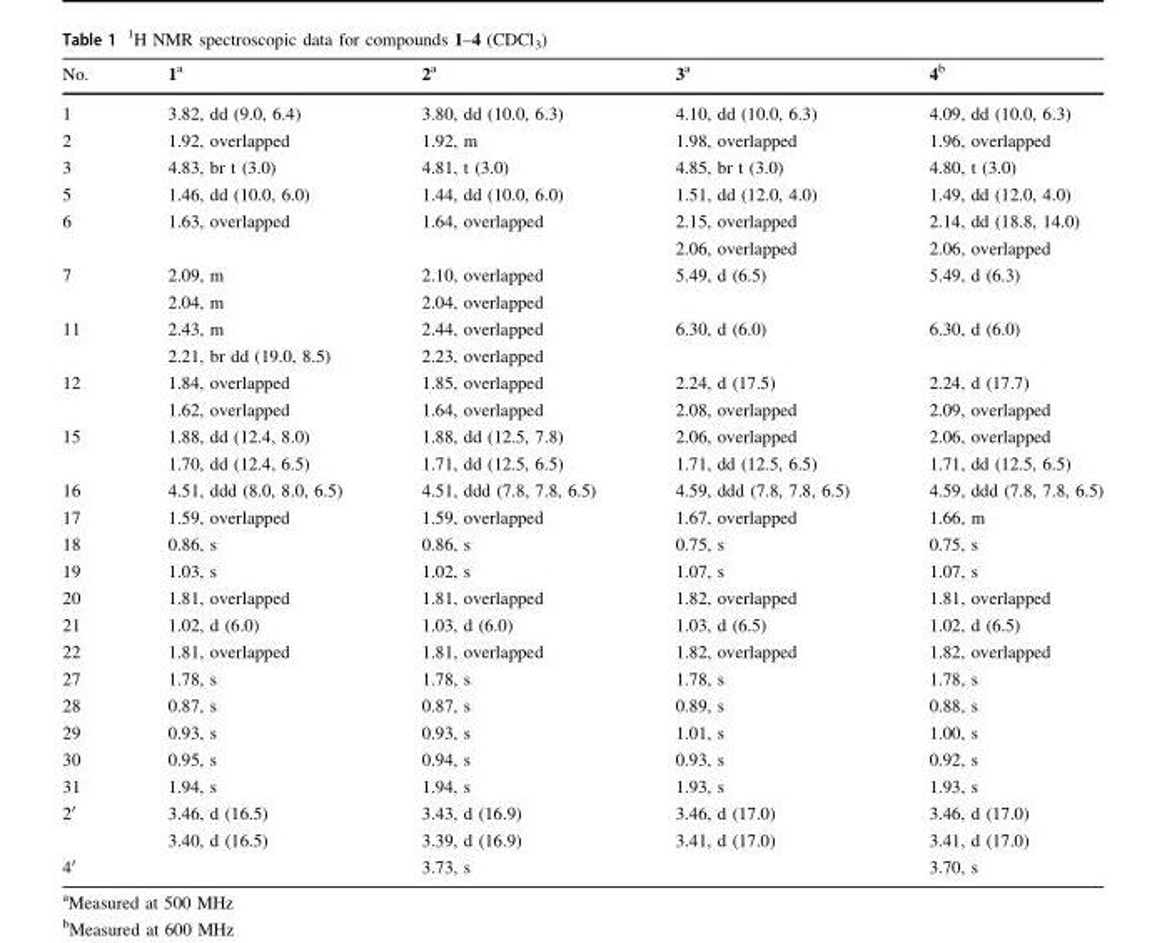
<table><thead><tr><td>No.</td><td>1<sup>a</sup></td><td>2<sup>a</sup></td><td>3<sup>a</sup></td><td>4<sup>b</sup></td></tr></thead><tbody><tr><td>1</td><td>3.82, dd (9.0, 6.4)</td><td>3.80, dd (10.0, 6.3)</td><td>4.10, dd (10.0, 6.3)</td><td>4.09, dd (10.0, 6.3)</td></tr><tr><td>2</td><td>1.92, overlapped</td><td>1.92, m</td><td>1.98, overlapped</td><td>1.96, overlapped</td></tr><tr><td>3</td><td>4.83, br t (3.0)</td><td>4.81, t (3.0)</td><td>4.85, br t (3.0)</td><td>4.80, t (3.0)</td></tr><tr><td>5</td><td>1.46, dd (10.0, 6.0)</td><td>1.44, dd (10.0, 6.0)</td><td>1.51, dd (12.0, 4.0)</td><td>1.49, dd (12.0, 4.0)</td></tr><tr><td>6</td><td>1.63, overlapped</td><td>1.64, overlapped</td><td>2.15, overlapped 2.06, overlapped</td><td>2.14, dd (18.8, 14.0) 2.06, overlapped</td></tr><tr><td>7</td><td>2.09, m 2.04, m</td><td>2.10, overlapped 2.04, overlapped</td><td>5.49, d (6.5)</td><td>5.49, d (6.3)</td></tr><tr><td>11</td><td>2.43, m 2.21, br dd (19.0, 8.5)</td><td>2.44, overlapped 2.23, overlapped</td><td>6.30, d (6.0)</td><td>6.30, d (6.0)</td></tr><tr><td>12</td><td>1.84, overlapped 1.62, overlapped</td><td>1.85, overlapped 1.64, overlapped</td><td>2.24, d (17.5) 2.08, overlapped</td><td>2.24, d (17.7) 2.09, overlapped</td></tr><tr><td>15</td><td>1.88, dd (12.4, 8.0) 1.70, dd (12.4, 6.5)</td><td>1.88, dd (12.5, 7.8) 1.71, dd (12.5, 6.5)</td><td>2.06, overlapped 1.71, dd (12.5, 6.5)</td><td>2.06, overlapped 1.71, dd (12.5, 6.5)</td></tr><tr><td>16</td><td>4.51, ddd (8.0, 8.0, 6.5)</td><td>4.51, ddd (7.8, 7.8, 6.5)</td><td>4.59, ddd (7.8, 7.8, 6.5)</td><td>4.59, ddd (7.8, 7.8, 6.5)</td></tr><tr><td>17</td><td>1.59, overlapped</td><td>1.59, overlapped</td><td>1.67, overlapped</td><td>1.66, m</td></tr><tr><td>18</td><td>0.86, s</td><td>0.86, s</td><td>0.75, s</td><td>0.75, s</td></tr><tr><td>19</td><td>1.03, s</td><td>1.02, s</td><td>1.07, s</td><td>1.07, s</td></tr><tr><td>20</td><td>1.81, overlapped</td><td>1.81, overlapped</td><td>1.82, overlapped</td><td>1.81, overlapped</td></tr><tr><td>21</td><td>1.02, d (6.0)</td><td>1.03, d (6.0)</td><td>1.03, d (6.5)</td><td>1.02, d (6.5)</td></tr><tr><td>22</td><td>1.81, overlapped</td><td>1.81, overlapped</td><td>1.82, overlapped</td><td>1.82, overlapped</td></tr><tr><td>27</td><td>1.78, s</td><td>1.78, s</td><td>1.78, s</td><td>1.78, s</td></tr><tr><td>28</td><td>0.87, s</td><td>0.87, s</td><td>0.89, s</td><td>0.88, s</td></tr><tr><td>29</td><td>0.93, s</td><td>0.93, s</td><td>1.01, s</td><td>1.00, s</td></tr><tr><td>30</td><td>0.95, s</td><td>0.94, s</td><td>0.93, s</td><td>0.92, s</td></tr><tr><td>31</td><td>1.94, s</td><td>1.94, s</td><td>1.93, s</td><td>1.93, s</td></tr><tr><td>2′</td><td>3.46, d (16.5) 3.40, d (16.5)</td><td>3.43, d (16.9) 3.39, d (16.9)</td><td>3.46, d (17.0) 3.41, d (17.0)</td><td>3.46, d (17.0) 3.41, d (17.0)</td></tr><tr><td>4′</td><td></td><td>3.73, s</td><td></td><td>3.70, s</td></tr></tbody></table>